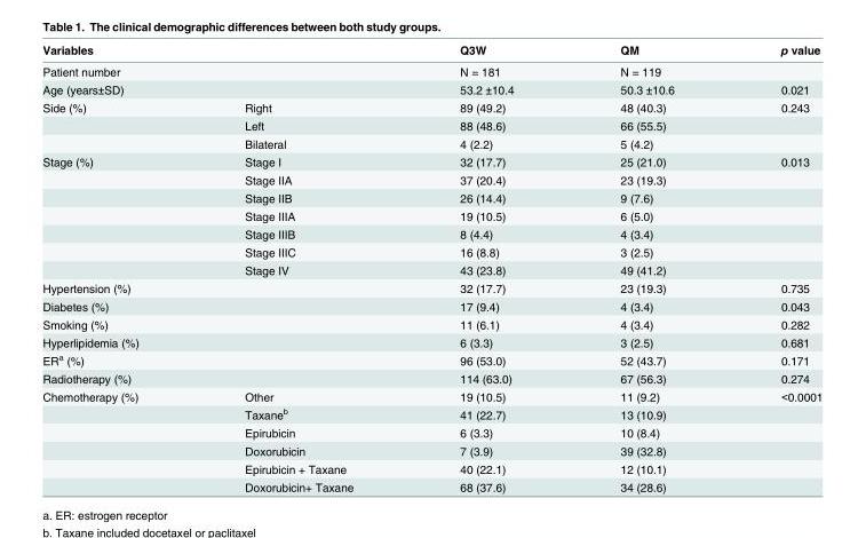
<table><thead><tr><td>Variables</td><td></td><td>Q3W</td><td>QM</td><td>p value</td></tr></thead><tbody><tr><td>Patient number</td><td></td><td>N = 181</td><td>N = 119</td><td></td></tr><tr><td>Age (years±SD)</td><td></td><td>53.2 ±10.4</td><td>50.3 ±10.6</td><td>0.021</td></tr><tr><td rowspan="3">Side (%)</td><td>Right</td><td>89 (49.2)</td><td>48 (40.3)</td><td>0.243</td></tr><tr><td>Left</td><td>88 (48.6)</td><td>66 (55.5)</td><td></td></tr><tr><td>Bilateral</td><td>4 (2.2)</td><td>5 (4.2)</td><td></td></tr><tr><td rowspan="7">Stage (%)</td><td>Stage I</td><td>32 (17.7)</td><td>25 (21.0)</td><td>0.013</td></tr><tr><td>Stage IIA</td><td>37 (20.4)</td><td>23 (19.3)</td><td></td></tr><tr><td>Stage IIB</td><td>26 (14.4)</td><td>9 (7.6)</td><td></td></tr><tr><td>Stage IIIA</td><td>19 (10.5)</td><td>6 (5.0)</td><td></td></tr><tr><td>Stage IIIB</td><td>8 (4.4)</td><td>4 (3.4)</td><td></td></tr><tr><td>Stage IIIC</td><td>16 (8.8)</td><td>3 (2.5)</td><td></td></tr><tr><td>Stage IV</td><td>43 (23.8)</td><td>49 (41.2)</td><td></td></tr><tr><td colspan="2">Hypertension (%)</td><td>32 (17.7)</td><td>23 (19.3)</td><td>0.735</td></tr><tr><td>Diabetes (%)</td><td></td><td>17 (9.4)</td><td>4 (3.4)</td><td>0.043</td></tr><tr><td>Smoking (%)</td><td></td><td>11 (6.1)</td><td>4 (3.4)</td><td>0.282</td></tr><tr><td colspan="2">Hyperlipidemia (%)</td><td>6 (3.3)</td><td>3 (2.5)</td><td>0.681</td></tr><tr><td>ER<sup>a</sup> (%)</td><td></td><td>96 (53.0)</td><td>52 (43.7)</td><td>0.171</td></tr><tr><td colspan="2">Radiotherapy (%)</td><td>114 (63.0)</td><td>67 (56.3)</td><td>0.274</td></tr><tr><td rowspan="6">Chemotherapy (%)</td><td>Other</td><td>19 (10.5)</td><td>11 (9.2)</td><td>&lt;0.0001</td></tr><tr><td>Taxane<sup>b</sup></td><td>41 (22.7)</td><td>13 (10.9)</td><td></td></tr><tr><td>Epirubicin</td><td>6 (3.3)</td><td>10 (8.4)</td><td></td></tr><tr><td>Doxorubicin</td><td>7 (3.9)</td><td>39 (32.8)</td><td></td></tr><tr><td>Epirubicin + Taxane</td><td>40 (22.1)</td><td>12 (10.1)</td><td></td></tr><tr><td>Doxorubicin+ Taxane</td><td>68 (37.6)</td><td>34 (28.6)</td><td></td></tr></tbody></table>